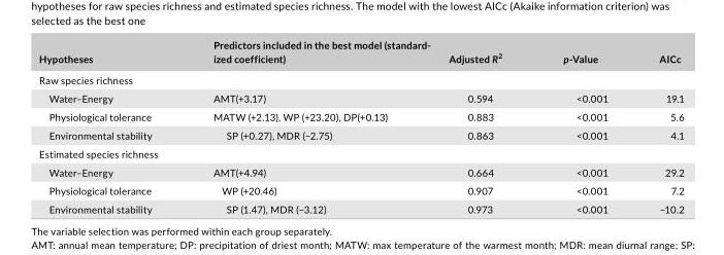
<table><thead><tr><td>Hypotheses</td><td>Predictors included in the best model (standard- ized coefficient)</td><td>Adjusted R<sup>2</sup></td><td>p- Value</td><td>AICc</td></tr></thead><tbody><tr><td colspan="5">Raw species richness</td></tr><tr><td>Water–Energy</td><td>AMT(+3.17)</td><td>0.594</td><td>&lt;0.001</td><td>19.1</td></tr><tr><td>Physiological tolerance</td><td>MATW (+2.13), WP (+23.20), DP(+0.13)</td><td>0.883</td><td>&lt;0.001</td><td>5.6</td></tr><tr><td>Environmental stability</td><td>SP (+0.27), MDR (−2.75)</td><td>0.863</td><td>&lt;0.001</td><td>4.1</td></tr><tr><td colspan="5">Estimated species richness</td></tr><tr><td>Water–Energy</td><td>AMT(+4.94)</td><td>0.664</td><td>&lt;0.001</td><td>29.2</td></tr><tr><td>Physiological tolerance</td><td>WP (+20.46)</td><td>0.907</td><td>&lt;0.001</td><td>7.2</td></tr><tr><td>Environmental stability</td><td>SP (1.47), MDR (−3.12)</td><td>0.973</td><td>&lt;0.001</td><td>−10.2</td></tr></tbody></table>